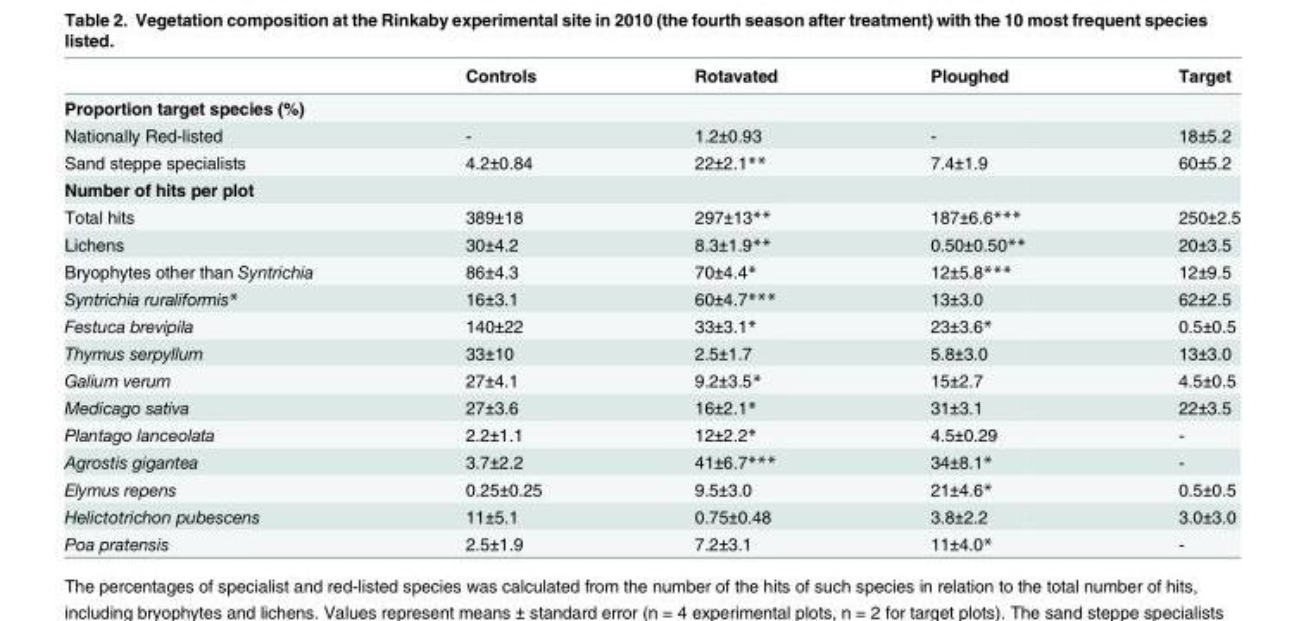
<table><thead><tr><td></td><td>Controls</td><td>Rotavated</td><td>Ploughed</td><td>Target</td></tr></thead><tbody><tr><td colspan="5">Proportion target species (%)</td></tr><tr><td>Nationally Red-listed</td><td>-</td><td>1.2±0.93</td><td>-</td><td>18±5.2</td></tr><tr><td>Sand steppe specialists</td><td>4.2±0.84</td><td>22±2.1**</td><td>7.4±1.9</td><td>60±5.2</td></tr><tr><td colspan="5">Number of hits per plot</td></tr><tr><td>Total hits</td><td>389±18</td><td>297±13**</td><td>187±6.6***</td><td>250±2.5</td></tr><tr><td>Lichens</td><td>30±4.2</td><td>8.3±1.9**</td><td>0.50±0.50**</td><td>20±3.5</td></tr><tr><td>Bryophytes other than Syntrichia</td><td>86±4.3</td><td>70±4.4*</td><td>12±5.8***</td><td>12±9.5</td></tr><tr><td>Syntrichia ruraliformis*</td><td>16±3.1</td><td>60±4.7***</td><td>13±3.0</td><td>62±2.5</td></tr><tr><td>Festuca brevipila</td><td>140±22</td><td>33±3.1*</td><td>23±3.6*</td><td>0.5±0.5</td></tr><tr><td>Thymus serpyllum</td><td>33±10</td><td>2.5±1.7</td><td>5.8±3.0</td><td>13±3.0</td></tr><tr><td>Galium verum</td><td>27±4.1</td><td>9.2±3.5*</td><td>15±2.7</td><td>4.5±0.5</td></tr><tr><td>Medicago sativa</td><td>27±3.6</td><td>16±2.1*</td><td>31±3.1</td><td>22±3.5</td></tr><tr><td>Plantago lanceolata</td><td>2.2±1.1</td><td>12±2.2*</td><td>4.5±0.29</td><td>-</td></tr><tr><td>Agrostis gigantea</td><td>3.7±2.2</td><td>41±6.7***</td><td>34±8.1*</td><td>-</td></tr><tr><td>Elymus repens</td><td>0.25±0.25</td><td>9.5±3.0</td><td>21±4.6*</td><td>0.5±0.5</td></tr><tr><td>Helictotrichon pubescens</td><td>11±5.1</td><td>0.75±0.48</td><td>3.8±2.2</td><td>3.0±3.0</td></tr><tr><td>Poa pratensis</td><td>2.5±1.9</td><td>7.2±3.1</td><td>11±4.0*</td><td>-</td></tr></tbody></table>